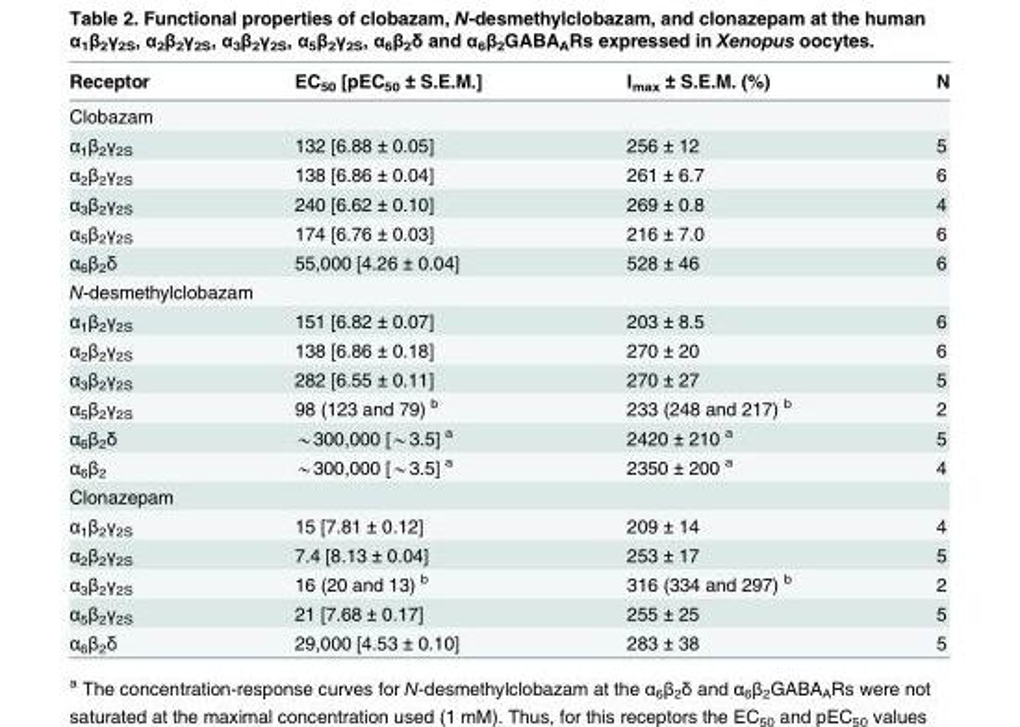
<table><thead><tr><td>Receptor</td><td>EC<sub>50</sub> [pEC<sub>50</sub> ± S.E.M.]</td><td>I<sub>max</sub> ± S.E.M. (%)</td><td>N</td></tr></thead><tbody><tr><td colspan="4">Clobazam</td></tr><tr><td>α<sub>1</sub>β<sub>2</sub>γ<sub>2S</sub></td><td>132 [6.88 ± 0.05]</td><td>256 ± 12</td><td>5</td></tr><tr><td>α<sub>2</sub>β<sub>2</sub>γ<sub>2S</sub></td><td>138 [6.86 ± 0.04]</td><td>261 ± 6.7</td><td>6</td></tr><tr><td>α<sub>3</sub>β<sub>2</sub>γ<sub>2S</sub></td><td>240 [6.62 ± 0.10]</td><td>269 ± 0.8</td><td>4</td></tr><tr><td>α<sub>5</sub>β<sub>2</sub>γ<sub>2S</sub></td><td>174 [6.76 ± 0.03]</td><td>216 ± 7.0</td><td>6</td></tr><tr><td>α<sub>6</sub>β<sub>2</sub>δ</td><td>55,000 [4.26 ± 0.04]</td><td>528 ± 46</td><td>6</td></tr><tr><td colspan="4">N-desmethylclobazam</td></tr><tr><td>α<sub>1</sub>β<sub>2</sub>γ<sub>2S</sub></td><td>151 [6.82 ± 0.07]</td><td>203 ± 8.5</td><td>6</td></tr><tr><td>α<sub>2</sub>β<sub>2</sub>γ<sub>2S</sub></td><td>138 [6.86 ± 0.18]</td><td>270 ± 20</td><td>6</td></tr><tr><td>α<sub>3</sub>β<sub>2</sub>γ<sub>2S</sub></td><td>282 [6.55 ± 0.11]</td><td>270 ± 27</td><td>5</td></tr><tr><td>α<sub>5</sub>β<sub>2</sub>γ<sub>2S</sub></td><td>98 (123 and 79) <sup>b</sup></td><td>233 (248 and 217) <sup>b</sup></td><td>2</td></tr><tr><td>α<sub>6</sub>β<sub>2</sub>δ</td><td>*300,000 [*3.5] a</td><td>2420 ± 210 <sup>a</sup></td><td>5</td></tr><tr><td>α<sub>6</sub>β<sub>2</sub></td><td>*300,000 [*3.5] a</td><td>2350 ± 200 <sup>a</sup></td><td>4</td></tr><tr><td colspan="4">Clonazepam</td></tr><tr><td>α<sub>1</sub>β<sub>2</sub>γ<sub>2S</sub></td><td>15 [7.81 ± 0.12]</td><td>209 ± 14</td><td>4</td></tr><tr><td>α<sub>2</sub>β<sub>2</sub>γ<sub>2S</sub></td><td>7.4 [8.13 ± 0.04]</td><td>253 ± 17</td><td>5</td></tr><tr><td>α<sub>3</sub>β<sub>2</sub>γ<sub>2S</sub></td><td>16 (20 and 13) <sup>b</sup></td><td>316 (334 and 297) <sup>b</sup></td><td>2</td></tr><tr><td>α<sub>5</sub>β<sub>2</sub>γ<sub>2S</sub></td><td>21 [7.68 ± 0.17]</td><td>255 ± 25</td><td>5</td></tr><tr><td>α<sub>6</sub>β<sub>2</sub>δ</td><td>29,000 [4.53 ± 0.10]</td><td>283 ± 38</td><td>5</td></tr></tbody></table>